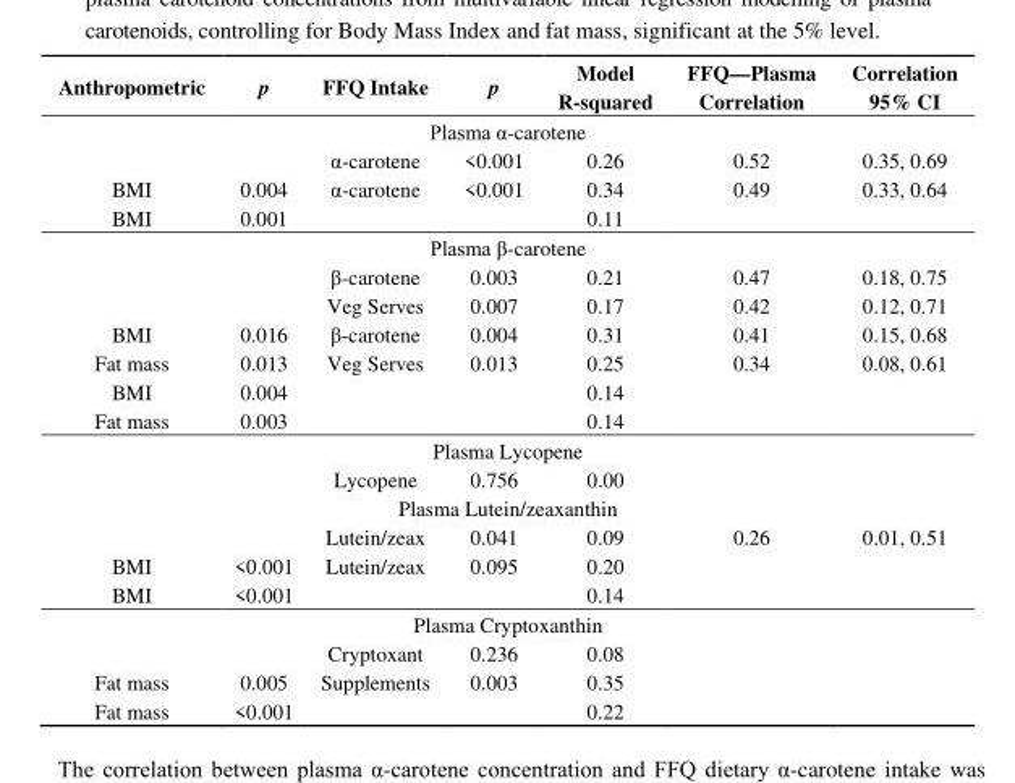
<table><thead><tr><td>Anthropometric</td><td>p</td><td>FFQ Intake</td><td>p</td><td>Model R-squared</td><td>FFQ—Plasma Correlation</td><td>Correlation 95% CI</td></tr></thead><tbody><tr><td colspan="7">Plasma α-carotene</td></tr><tr><td></td><td></td><td>α-carotene</td><td>&lt;0.001</td><td>0.26</td><td>0.52</td><td>0.35, 0.69</td></tr><tr><td>BMI</td><td>0.004</td><td>α-carotene</td><td>&lt;0.001</td><td>0.34</td><td>0.49</td><td>0.33, 0.64</td></tr><tr><td>BMI</td><td>0.001</td><td></td><td></td><td>0.11</td><td></td><td></td></tr><tr><td colspan="7">Plasma β-carotene</td></tr><tr><td></td><td></td><td>β-carotene</td><td>0.003</td><td>0.21</td><td>0.47</td><td>0.18, 0.75</td></tr><tr><td></td><td></td><td>Veg Serves</td><td>0.007</td><td>0.17</td><td>0.42</td><td>0.12, 0.71</td></tr><tr><td>BMI</td><td>0.016</td><td>β-carotene</td><td>0.004</td><td>0.31</td><td>0.41</td><td>0.15, 0.68</td></tr><tr><td>Fat mass</td><td>0.013</td><td>Veg Serves</td><td>0.013</td><td>0.25</td><td>0.34</td><td>0.08, 0.61</td></tr><tr><td>BMI</td><td>0.004</td><td></td><td></td><td>0.14</td><td></td><td></td></tr><tr><td>Fat mass</td><td>0.003</td><td></td><td></td><td>0.14</td><td></td><td></td></tr><tr><td colspan="7">Plasma Lycopene</td></tr><tr><td></td><td></td><td>Lycopene</td><td>0.756</td><td>0.00</td><td></td><td></td></tr><tr><td colspan="7">Plasma Lutein/zeaxanthin</td></tr><tr><td></td><td></td><td>Lutein/zeax</td><td>0.041</td><td>0.09</td><td>0.26</td><td>0.01, 0.51</td></tr><tr><td>BMI</td><td>&lt;0.001</td><td>Lutein/zeax</td><td>0.095</td><td>0.20</td><td></td><td></td></tr><tr><td>BMI</td><td>&lt;0.001</td><td></td><td></td><td>0.14</td><td></td><td></td></tr><tr><td colspan="7">Plasma Cryptoxanthin</td></tr><tr><td></td><td></td><td>Cryptoxant</td><td>0.236</td><td>0.08</td><td></td><td></td></tr><tr><td>Fat mass</td><td>0.005</td><td>Supplements</td><td>0.003</td><td>0.35</td><td></td><td></td></tr><tr><td>Fat mass</td><td>&lt;0.001</td><td></td><td></td><td>0.22</td><td></td><td></td></tr></tbody></table>